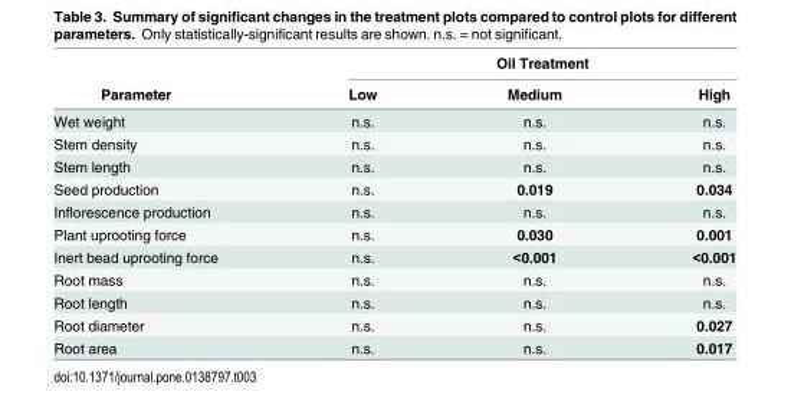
<table><thead><tr><td rowspan="2">Parameter</td><td colspan="3">Oil Treatment</td></tr><tr><td>Low</td><td>Medium</td><td>High</td></tr></thead><tbody><tr><td>Wet weight</td><td>n.s.</td><td>n.s.</td><td>n.s.</td></tr><tr><td>Stem density</td><td>n.s.</td><td>n.s.</td><td>n.s.</td></tr><tr><td>Stem length</td><td>n.s.</td><td>n.s.</td><td>n.s.</td></tr><tr><td>Seed production</td><td>n.s.</td><td>0.019</td><td>0.034</td></tr><tr><td>Inflorescence production</td><td>n.s.</td><td>n.s.</td><td>n.s.</td></tr><tr><td>Plant uprooting force</td><td>n.s.</td><td>0.030</td><td>0.001</td></tr><tr><td>Inert bead uprooting force</td><td>n.s.</td><td>&lt;0.001</td><td>&lt;0.001</td></tr><tr><td>Root mass</td><td>n.s.</td><td>n.s.</td><td>n.s.</td></tr><tr><td>Root length</td><td>n.s.</td><td>n.s.</td><td>n.s.</td></tr><tr><td>Root diameter</td><td>n.s.</td><td>n.s.</td><td>0.027</td></tr><tr><td>Root area</td><td>n.s.</td><td>n.s.</td><td>0.017</td></tr></tbody></table>